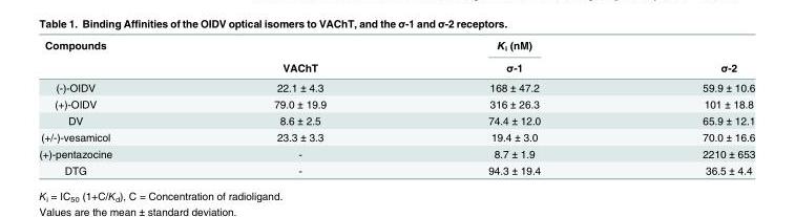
<table><thead><tr><td rowspan="2">Compounds</td><td rowspan="2">VAChT</td><td rowspan="2">K<sub>i</sub> (nM) σ-1</td><td rowspan="2">σ-2</td></tr><tr></tr></thead><tbody><tr><td>(-)-OIDV</td><td>22.1 ± 4.3</td><td>168 ± 47.2</td><td>59.9 ± 10.6</td></tr><tr><td>(+)-OIDV</td><td>79.0 ± 19.9</td><td>316 ± 26.3</td><td>101 ± 18.8</td></tr><tr><td>DV</td><td>8.6 ± 2.5</td><td>74.4 ± 12.0</td><td>65.9 ± 12.1</td></tr><tr><td>(+/-)-vesamicol</td><td>23.3 ± 3.3</td><td>19.4 ± 3.0</td><td>70.0 ± 16.6</td></tr><tr><td>(+)-pentazocine</td><td>-</td><td>8.7 ± 1.9</td><td>2210 ± 653</td></tr><tr><td>DTG</td><td>-</td><td>94.3 ± 19.4</td><td>36.5 ± 4.4</td></tr></tbody></table>